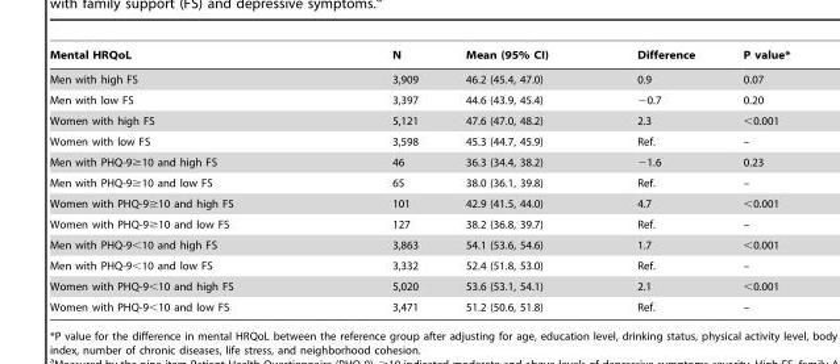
<table><thead><tr><td>Mental HRQoL</td><td>N</td><td>Mean (95% CI)</td><td>Difference</td><td>P value*</td></tr></thead><tbody><tr><td>Men with high FS</td><td>3,909</td><td>46.2 (45.4, 47.0)</td><td>0.9</td><td>0.07</td></tr><tr><td>Men with low FS</td><td>3,397</td><td>44.6 (43.9, 45.4)</td><td>−0.7</td><td>0.20</td></tr><tr><td>Women with high FS</td><td>5,121</td><td>47.6 (47.0, 48.2)</td><td>2.3</td><td>&lt;0.001</td></tr><tr><td>Women with low FS</td><td>3,598</td><td>45.3 (44.7, 45.9)</td><td>Ref.</td><td>–</td></tr><tr><td>Men with PHQ-9≥10 and high FS</td><td>46</td><td>36.3 (34.4, 38.2)</td><td>−1.6</td><td>0.23</td></tr><tr><td>Men with PHQ-9≥10 and low FS</td><td>65</td><td>38.0 (36.1, 39.8)</td><td>Ref.</td><td>–</td></tr><tr><td>Women with PHQ-9≥10 and high FS</td><td>101</td><td>42.9 (41.5, 44.0)</td><td>4.7</td><td>&lt;0.001</td></tr><tr><td>Women with PHQ-9≥10 and low FS</td><td>127</td><td>38.2 (36.8, 39.7)</td><td>Ref.</td><td>–</td></tr><tr><td>Men with PHQ-9&lt;10 and high FS</td><td>3,863</td><td>54.1 (53.6, 54.6)</td><td>1.7</td><td>&lt;0.001</td></tr><tr><td>Men with PHQ-9&lt;10 and low FS</td><td>3,332</td><td>52.4 (51.8, 53.0)</td><td>Ref.</td><td>–</td></tr><tr><td>Women with PHQ-9&lt;10 and high FS</td><td>5,020</td><td>53.6 (53.1, 54.1)</td><td>2.1</td><td>&lt;0.001</td></tr><tr><td>Women with PHQ-9&lt;10 and low FS</td><td>3,471</td><td>51.2 (50.6, 51.8)</td><td>Ref.</td><td>–</td></tr></tbody></table>